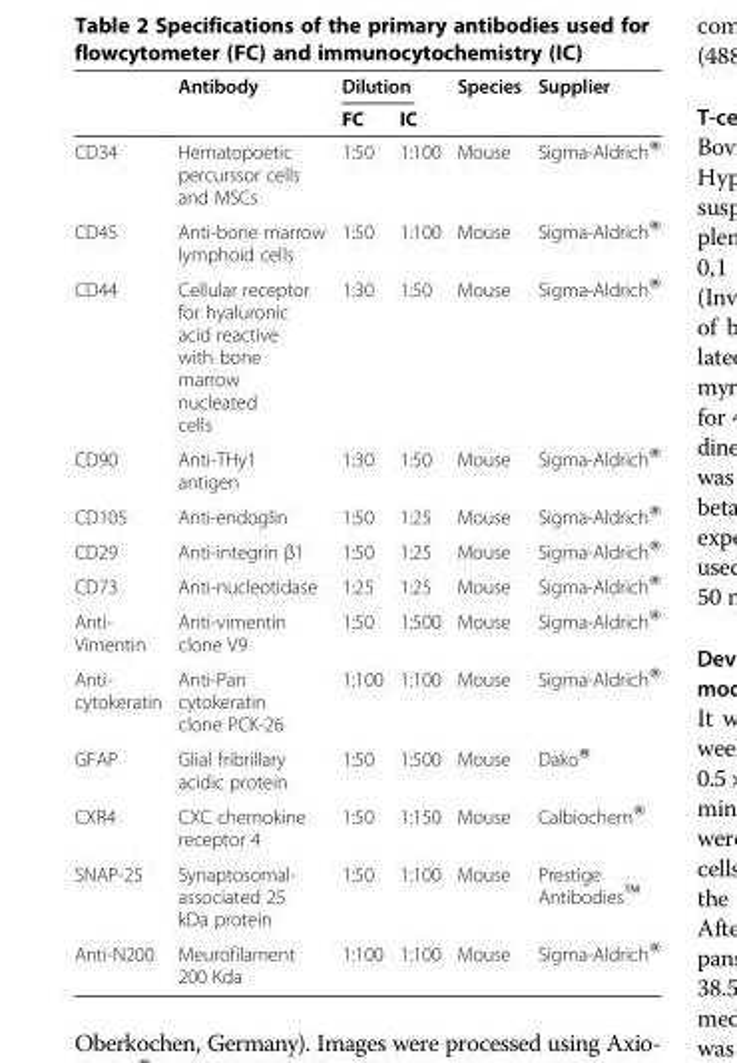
<table><thead><tr><td rowspan="2"></td><td rowspan="2">Antibody</td><td colspan="2">Dilution</td><td rowspan="2">Species</td><td rowspan="2">Supplier</td></tr><tr><td>FC</td><td>IC</td></tr></thead><tbody><tr><td>CD34</td><td>Hematopoetic percurssor cells and MSCs</td><td>1:50</td><td>1:100</td><td>Mouse</td><td>Sigma-Aldrich®</td></tr><tr><td>CD45</td><td>Anti-bone marrow lymphoid cells</td><td>1:50</td><td>1:100</td><td>Mouse</td><td>Sigma-Aldrich®</td></tr><tr><td>CD44</td><td>Cellular receptor for hyaluronic acid reactive with bone marrow nucleated cells</td><td>1:30</td><td>1:50</td><td>Mouse</td><td>Sigma-Aldrich®</td></tr><tr><td>CD90</td><td>Anti-THy1 antigen</td><td>1:30</td><td>1:50</td><td>Mouse</td><td>Sigma-Aldrich®</td></tr><tr><td>CD105</td><td>Anti-endoglin</td><td>1:50</td><td>1:25</td><td>Mouse</td><td>Sigma-Aldrich®</td></tr><tr><td>CD29</td><td>Anti-integrin β1</td><td>1:50</td><td>1:25</td><td>Mouse</td><td>Sigma-Aldrich®</td></tr><tr><td>CD73</td><td>Anti-nucleotidase</td><td>1:25</td><td>1:25</td><td>Mouse</td><td>Sigma-Aldrich®</td></tr><tr><td>Anti- Vimentin</td><td>Anti-vimentin clone V9</td><td>1:50</td><td>1:500</td><td>Mouse</td><td>Sigma-Aldrich®</td></tr><tr><td>Anti- cytokeratin</td><td>Anti-Pan cytokeratin clone PCK-26</td><td>1:100</td><td>1:100</td><td>Mouse</td><td>Sigma-Aldrich®</td></tr><tr><td>GFAP</td><td>Glial fribrillary acidic protein</td><td>1:50</td><td>1:500</td><td>Mouse</td><td>Dako®</td></tr><tr><td>CXR4</td><td>CXC chemokine receptor 4</td><td>1:50</td><td>1:150</td><td>Mouse</td><td>Calbiochem®</td></tr><tr><td>SNAP-25</td><td>Synaptosomal- associated 25 kDa protein</td><td>1:50</td><td>1:100</td><td>Mouse</td><td>Prestige Antibodies™</td></tr><tr><td>Anti-N200</td><td>Meurofilament 200 Kda</td><td>1:100</td><td>1:100</td><td>Mouse</td><td>Sigma-Aldrich®</td></tr></tbody></table>